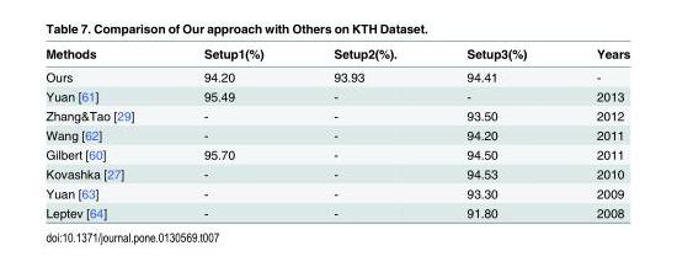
<table><thead><tr><td>Methods</td><td>Setup1(%)</td><td>Setup2(%).</td><td>Setup3(%)</td><td>Years</td></tr></thead><tbody><tr><td>Ours</td><td>94.20</td><td>93.93</td><td>94.41</td><td>-</td></tr><tr><td>Yuan [61]</td><td>95.49</td><td>-</td><td>-</td><td>2013</td></tr><tr><td>Zhang&amp;Tao [29]</td><td>-</td><td>-</td><td>93.50</td><td>2012</td></tr><tr><td>Wang [62]</td><td>-</td><td>-</td><td>94.20</td><td>2011</td></tr><tr><td>Gilbert [60]</td><td>95.70</td><td>-</td><td>94.50</td><td>2011</td></tr><tr><td>Kovashka [27]</td><td>-</td><td>-</td><td>94.53</td><td>2010</td></tr><tr><td>Yuan [63]</td><td>-</td><td>-</td><td>93.30</td><td>2009</td></tr><tr><td>Leptev [64]</td><td>-</td><td>-</td><td>91.80</td><td>2008</td></tr></tbody></table>